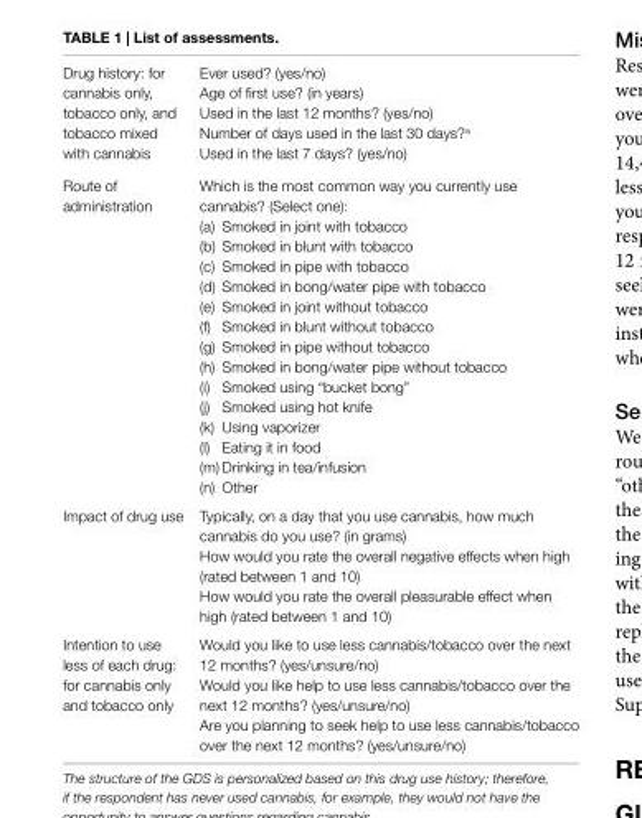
<table><tbody><tr><td>Drug history: for cannabis only, tobacco only, and tobacco mixed with cannabis</td><td>Ever used? (yes/no) Age of first use? (in years) Used in the last 12 months? (yes/no) Number of days used in the last 30 days?<sup>a</sup> Used in the last 7 days? (yes/no)</td></tr><tr><td>Route of administration</td><td>Which is the most common way you currently use cannabis? (Select one): (a) Smoked in joint with tobacco (b) Smoked in blunt with tobacco (c) Smoked in pipe with tobacco (d) Smoked in bong/water pipe with tobacco (e) Smoked in joint without tobacco (f) Smoked in blunt without tobacco (g) Smoked in pipe without tobacco (h) Smoked in bong/water pipe without tobacco (i) Smoked using “bucket bong” (j) Smoked using hot knife (k) Using vaporizer (l) Eating it in food (m) Drinking in tea/infusion (n) Other</td></tr><tr><td>Impact of drug use</td><td>Typically, on a day that you use cannabis, how much cannabis do you use? (in grams) How would you rate the overall negative effects when high (rated between 1 and 10) How would you rate the overall pleasurable effect when high (rated between 1 and 10)</td></tr><tr><td>Intention to use less of each drug: for cannabis only and tobacco only</td><td>Would you like to use less cannabis/tobacco over the next 12 months? (yes/unsure/no) Would you like help to use less cannabis/tobacco over the next 12 months? (yes/unsure/no) Are you planning to seek help to use less cannabis/tobacco over the next 12 months? (yes/unsure/no)</td></tr></tbody></table>